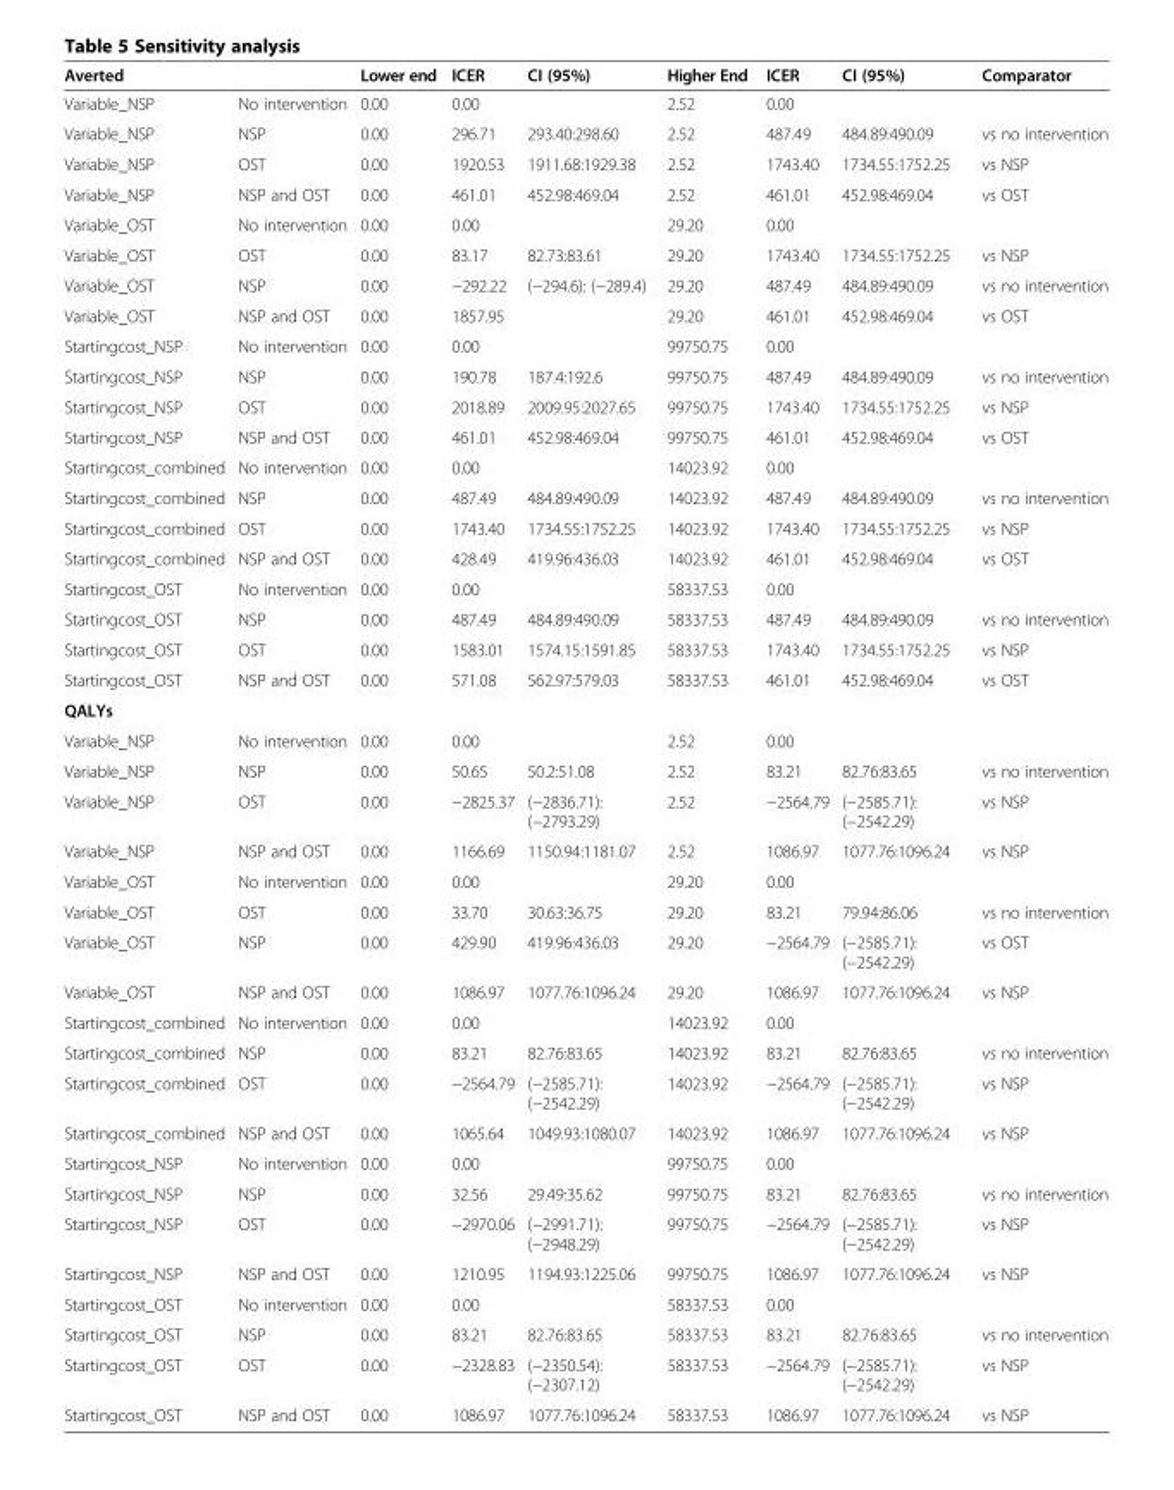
<table><thead><tr><td>Averted</td><td></td><td>Lower end</td><td>ICER</td><td>CI (95%)</td><td>Higher End</td><td>ICER</td><td>CI (95%)</td><td>Comparator</td></tr></thead><tbody><tr><td>Variable_NSP</td><td>No intervention</td><td>0.00</td><td>0.00</td><td></td><td>2.52</td><td>0.00</td><td></td><td></td></tr><tr><td>Variable_NSP</td><td>NSP</td><td>0.00</td><td>296.71</td><td>293.40:298.60</td><td>2.52</td><td>487.49</td><td>484.89:490.09</td><td>vs no intervention</td></tr><tr><td>Variable_NSP</td><td>OST</td><td>0.00</td><td>1920.53</td><td>1911.68:1929.38</td><td>2.52</td><td>1743.40</td><td>1734.55:1752.25</td><td>vs NSP</td></tr><tr><td>Variable_NSP</td><td>NSP and OST</td><td>0.00</td><td>461.01</td><td>452.98:469.04</td><td>2.52</td><td>461.01</td><td>452.98:469.04</td><td>vs OST</td></tr><tr><td>Variable_OST</td><td>No intervention</td><td>0.00</td><td>0.00</td><td></td><td>29.20</td><td>0.00</td><td></td><td></td></tr><tr><td>Variable_OST</td><td>OST</td><td>0.00</td><td>83.17</td><td>82.73:83.61</td><td>29.20</td><td>1743.40</td><td>1734.55:1752.25</td><td>vs NSP</td></tr><tr><td>Variable_OST</td><td>NSP</td><td>0.00</td><td>−292.22</td><td>(−294.6): (−289.4)</td><td>29.20</td><td>487.49</td><td>484.89:490.09</td><td>vs no intervention</td></tr><tr><td>Variable_OST</td><td>NSP and OST</td><td>0.00</td><td>1857.95</td><td></td><td>29.20</td><td>461.01</td><td>452.98:469.04</td><td>vs OST</td></tr><tr><td>Startingcost_NSP</td><td>No intervention</td><td>0.00</td><td>0.00</td><td></td><td>99750.75</td><td>0.00</td><td></td><td></td></tr><tr><td>Startingcost_NSP</td><td>NSP</td><td>0.00</td><td>190.78</td><td>187.4:192.6</td><td>99750.75</td><td>487.49</td><td>484.89:490.09</td><td>vs no intervention</td></tr><tr><td>Startingcost_NSP</td><td>OST</td><td>0.00</td><td>2018.89</td><td>2009.95:2027.65</td><td>99750.75</td><td>1743.40</td><td>1734.55:1752.25</td><td>vs NSP</td></tr><tr><td>Startingcost_NSP</td><td>NSP and OST</td><td>0.00</td><td>461.01</td><td>452.98:469.04</td><td>99750.75</td><td>461.01</td><td>452.98:469.04</td><td>vs OST</td></tr><tr><td>Startingcost_combined</td><td>No intervention</td><td>0.00</td><td>0.00</td><td></td><td>14023.92</td><td>0.00</td><td></td><td></td></tr><tr><td>Startingcost_combined</td><td>NSP</td><td>0.00</td><td>487.49</td><td>484.89:490.09</td><td>14023.92</td><td>487.49</td><td>484.89:490.09</td><td>vs no intervention</td></tr><tr><td>Startingcost_combined</td><td>OST</td><td>0.00</td><td>1743.40</td><td>1734.55:1752.25</td><td>14023.92</td><td>1743.40</td><td>1734.55:1752.25</td><td>vs NSP</td></tr><tr><td>Startingcost_combined</td><td>NSP and OST</td><td>0.00</td><td>428.49</td><td>419.96:436.03</td><td>14023.92</td><td>461.01</td><td>452.98:469.04</td><td>vs OST</td></tr><tr><td>Startingcost_OST</td><td>No intervention</td><td>0.00</td><td>0.00</td><td></td><td>58337.53</td><td>0.00</td><td></td><td></td></tr><tr><td>Startingcost_OST</td><td>NSP</td><td>0.00</td><td>487.49</td><td>484.89:490.09</td><td>58337.53</td><td>487.49</td><td>484.89:490.09</td><td>vs no intervention</td></tr><tr><td>Startingcost_OST</td><td>OST</td><td>0.00</td><td>1583.01</td><td>1574.15:1591.85</td><td>58337.53</td><td>1743.40</td><td>1734.55:1752.25</td><td>vs NSP</td></tr><tr><td>Startingcost_OST</td><td>NSP and OST</td><td>0.00</td><td>571.08</td><td>562.97:579.03</td><td>58337.53</td><td>461.01</td><td>452.98:469.04</td><td>vs OST</td></tr><tr><td colspan="9">QALYs</td></tr><tr><td>Variable_NSP</td><td>No intervention</td><td>0.00</td><td>0.00</td><td></td><td>2.52</td><td>0.00</td><td></td><td></td></tr><tr><td>Variable_NSP</td><td>NSP</td><td>0.00</td><td>50.65</td><td>50.2:51.08</td><td>2.52</td><td>83.21</td><td>82.76:83.65</td><td>vs no intervention</td></tr><tr><td>Variable_NSP</td><td>OST</td><td>0.00</td><td>−2825.37</td><td>(−2836.71): (−2793.29)</td><td>2.52</td><td>−2564.79</td><td>(−2585.71): (−2542.29)</td><td>vs NSP</td></tr><tr><td>Variable_NSP</td><td>NSP and OST</td><td>0.00</td><td>1166.69</td><td>1150.94:1181.07</td><td>2.52</td><td>1086.97</td><td>1077.76:1096.24</td><td>vs NSP</td></tr><tr><td>Variable_OST</td><td>No intervention</td><td>0.00</td><td>0.00</td><td></td><td>29.20</td><td>0.00</td><td></td><td></td></tr><tr><td>Variable_OST</td><td>OST</td><td>0.00</td><td>33.70</td><td>30.63:36.75</td><td>29.20</td><td>83.21</td><td>79.94:86.06</td><td>vs no intervention</td></tr><tr><td>Variable_OST</td><td>NSP</td><td>0.00</td><td>429.90</td><td>419.96:436.03</td><td>29.20</td><td>−2564.79</td><td>(−2585.71): (−2542.29)</td><td>vs OST</td></tr><tr><td>Variable_OST</td><td>NSP and OST</td><td>0.00</td><td>1086.97</td><td>1077.76:1096.24</td><td>29.20</td><td>1086.97</td><td>1077.76:1096.24</td><td>vs NSP</td></tr><tr><td>Startingcost_combined</td><td>No intervention</td><td>0.00</td><td>0.00</td><td></td><td>14023.92</td><td>0.00</td><td></td><td></td></tr><tr><td>Startingcost_combined</td><td>NSP</td><td>0.00</td><td>83.21</td><td>82.76:83.65</td><td>14023.92</td><td>83.21</td><td>82.76:83.65</td><td>vs no intervention</td></tr><tr><td>Startingcost_combined</td><td>OST</td><td>0.00</td><td>−2564.79</td><td>(−2585.71): (−2542.29)</td><td>14023.92</td><td>−2564.79</td><td>(−2585.71): (−2542.29)</td><td>vs NSP</td></tr><tr><td>Startingcost_combined</td><td>NSP and OST</td><td>0.00</td><td>1065.64</td><td>1049.93:1080.07</td><td>14023.92</td><td>1086.97</td><td>1077.76:1096.24</td><td>vs NSP</td></tr><tr><td>Startingcost_NSP</td><td>No intervention</td><td>0.00</td><td>0.00</td><td></td><td>99750.75</td><td>0.00</td><td></td><td></td></tr><tr><td>Startingcost_NSP</td><td>NSP</td><td>0.00</td><td>32.56</td><td>29.49:35.62</td><td>99750.75</td><td>83.21</td><td>82.76:83.65</td><td>vs no intervention</td></tr><tr><td>Startingcost_NSP</td><td>OST</td><td>0.00</td><td>−2970.06</td><td>(−2991.71): (−2948.29)</td><td>99750.75</td><td>−2564.79</td><td>(−2585.71): (−2542.29)</td><td>vs NSP</td></tr><tr><td>Startingcost_NSP</td><td>NSP and OST</td><td>0.00</td><td>1210.95</td><td>1194.93:1225.06</td><td>99750.75</td><td>1086.97</td><td>1077.76:1096.24</td><td>vs NSP</td></tr><tr><td>Startingcost_OST</td><td>No intervention</td><td>0.00</td><td>0.00</td><td></td><td>58337.53</td><td>0.00</td><td></td><td></td></tr><tr><td>Startingcost_OST</td><td>NSP</td><td>0.00</td><td>83.21</td><td>82.76:83.65</td><td>58337.53</td><td>83.21</td><td>82.76:83.65</td><td>vs no intervention</td></tr><tr><td>Startingcost_OST</td><td>OST</td><td>0.00</td><td>−2328.83</td><td>(−2350.54): (−2307.12)</td><td>58337.53</td><td>−2564.79</td><td>(−2585.71): (−2542.29)</td><td>vs NSP</td></tr><tr><td>Startingcost_OST</td><td>NSP and OST</td><td>0.00</td><td>1086.97</td><td>1077.76:1096.24</td><td>58337.53</td><td>1086.97</td><td>1077.76:1096.24</td><td>vs NSP</td></tr></tbody></table>